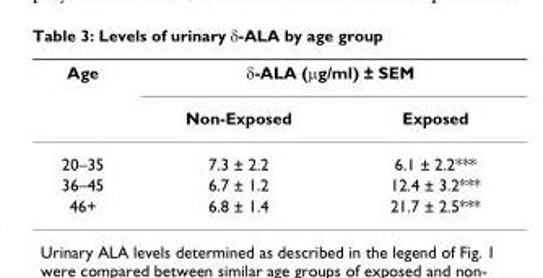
<table><thead><tr><td rowspan="2">Age</td><td colspan="2">δ-ALA (μg/ml) ± SEM</td></tr><tr><td>Non-Exposed</td><td>Exposed</td></tr></thead><tbody><tr><td>20–35</td><td>7.3 ± 2.2</td><td>6.1 ± 2.2***</td></tr><tr><td>36–45</td><td>6.7 ± 1.2</td><td>12.4 ± 3.2***</td></tr><tr><td>46+</td><td>6.8 ± 1.4</td><td>21.7 ± 2.5***</td></tr></tbody></table>